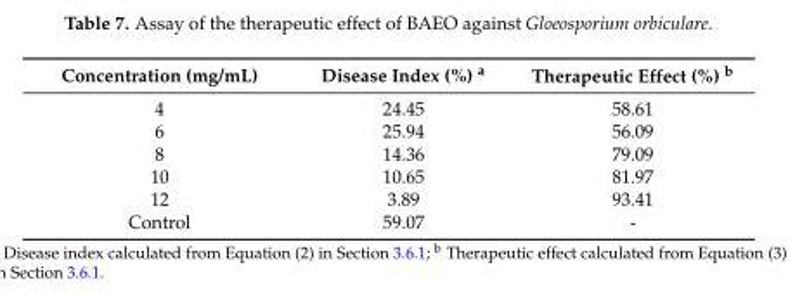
<table><thead><tr><td>Concentration (mg/mL)</td><td>Disease Index (%) <sup>a</sup></td><td>Therapeutic Effect (%) <sup>b</sup></td></tr></thead><tbody><tr><td>4</td><td>24.45</td><td>58.61</td></tr><tr><td>6</td><td>25.94</td><td>56.09</td></tr><tr><td>8</td><td>14.36</td><td>79.09</td></tr><tr><td>10</td><td>10.65</td><td>81.97</td></tr><tr><td>12</td><td>3.89</td><td>93.41</td></tr><tr><td>Control</td><td>59.07</td><td>-</td></tr></tbody></table>